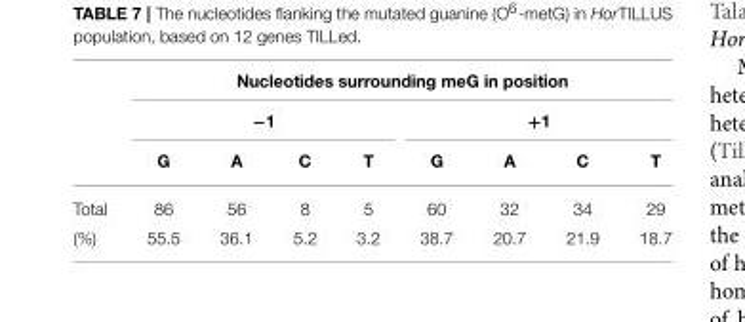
<table><thead><tr><td rowspan="3"></td><td colspan="8">Nucleotides surrounding meG in position</td></tr><tr><td colspan="4">−1</td><td colspan="4">+1</td></tr><tr><td>G</td><td>A</td><td>C</td><td>T</td><td>G</td><td>A</td><td>C</td><td>T</td></tr></thead><tbody><tr><td>Total</td><td>86</td><td>56</td><td>8</td><td>5</td><td>60</td><td>32</td><td>34</td><td>29</td></tr><tr><td>(%)</td><td>55.5</td><td>36.1</td><td>5.2</td><td>3.2</td><td>38.7</td><td>20.7</td><td>21.9</td><td>18.7</td></tr></tbody></table>